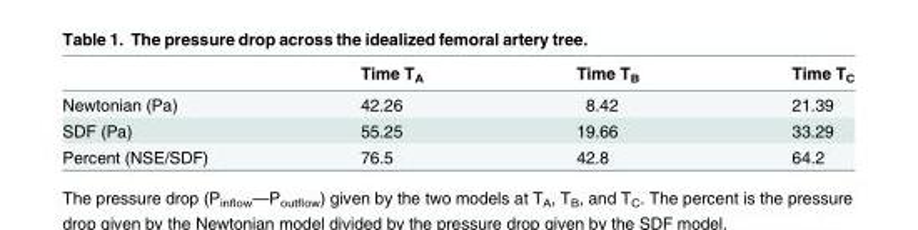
<table><thead><tr><td></td><td>Time T<sub>A</sub></td><td>Time T<sub>B</sub></td><td>Time T<sub>C</sub></td></tr></thead><tbody><tr><td>Newtonian (Pa)</td><td>42.26</td><td>8.42</td><td>21.39</td></tr><tr><td>SDF (Pa)</td><td>55.25</td><td>19.66</td><td>33.29</td></tr><tr><td>Percent (NSE/SDF)</td><td>76.5</td><td>42.8</td><td>64.2</td></tr></tbody></table>